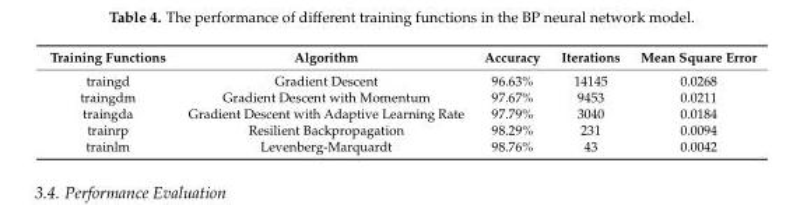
<table><thead><tr><td>Training Functions</td><td>Algorithm</td><td>Accuracy</td><td>Iterations</td><td>Mean Square Error</td></tr></thead><tbody><tr><td>traingd</td><td>Gradient Descent</td><td>96.63%</td><td>14145</td><td>0.0268</td></tr><tr><td>traingdm</td><td>Gradient Descent with Momentum</td><td>97.67%</td><td>9453</td><td>0.0211</td></tr><tr><td>traingda</td><td>Gradient Descent with Adaptive Learning Rate</td><td>97.79%</td><td>3040</td><td>0.0184</td></tr><tr><td>trainrp</td><td>Resilient Backpropagation</td><td>98.29%</td><td>231</td><td>0.0094</td></tr><tr><td>trainlm</td><td>Levenberg-Marquardt</td><td>98.76%</td><td>43</td><td>0.0042</td></tr></tbody></table>